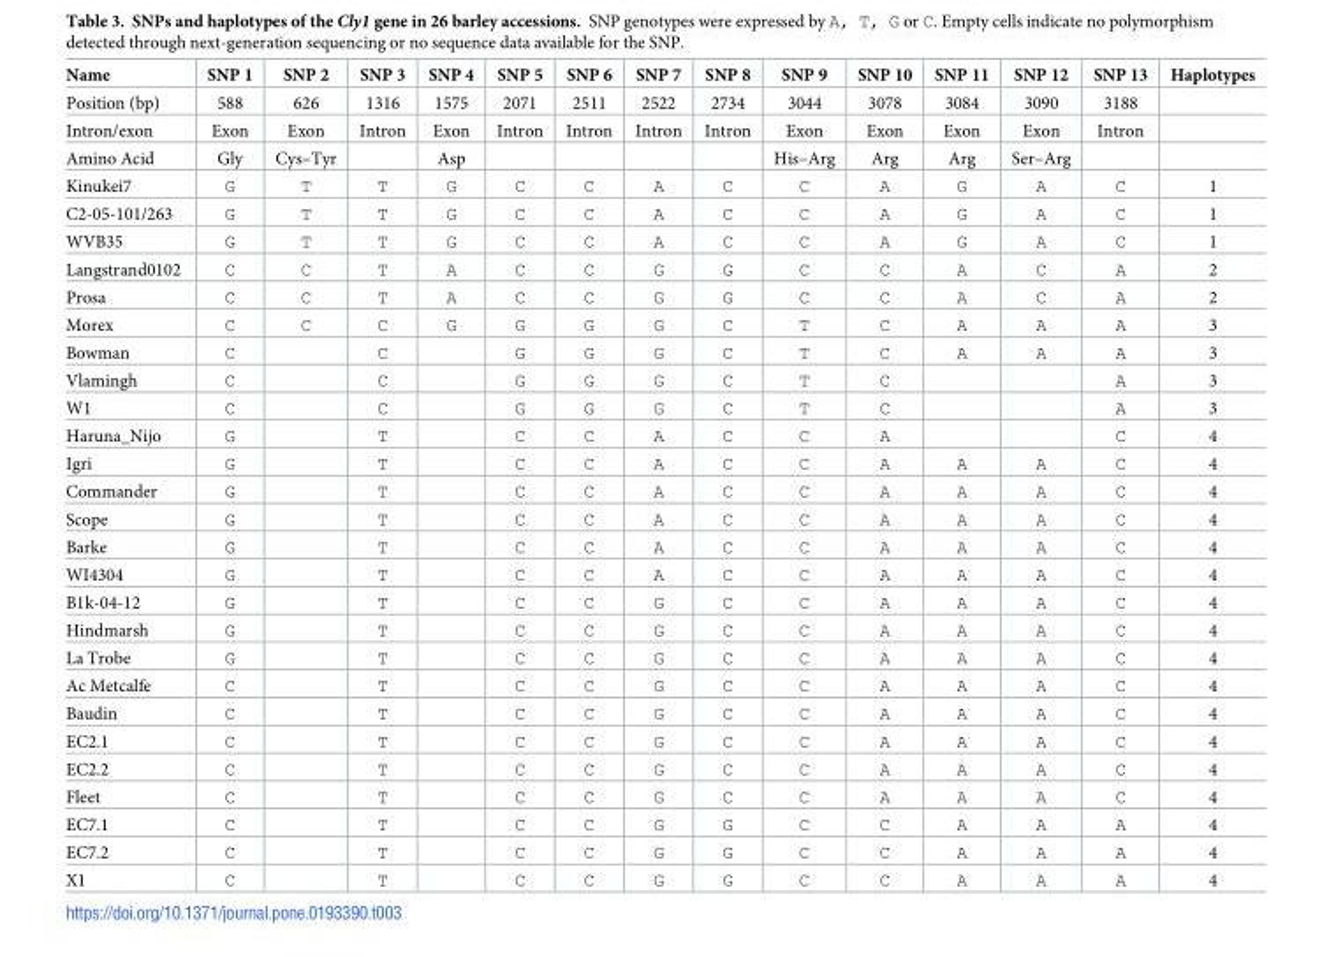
<table><thead><tr><td>Name</td><td>SNP 1</td><td>SNP 2</td><td>SNP 3</td><td>SNP 4</td><td>SNP 5</td><td>SNP 6</td><td>SNP 7</td><td>SNP 8</td><td>SNP 9</td><td>SNP 10</td><td>SNP 11</td><td>SNP 12</td><td>SNP 13</td><td>Haplotypes</td></tr></thead><tbody><tr><td>Position (bp)</td><td>588</td><td>626</td><td>1316</td><td>1575</td><td>2071</td><td>2511</td><td>2522</td><td>2734</td><td>3044</td><td>3078</td><td>3084</td><td>3090</td><td>3188</td><td></td></tr><tr><td>Intron/exon</td><td>Exon</td><td>Exon</td><td>Intron</td><td>Exon</td><td>Intron</td><td>Intron</td><td>Intron</td><td>Intron</td><td>Exon</td><td>Exon</td><td>Exon</td><td>Exon</td><td>Intron</td><td></td></tr><tr><td>Amino Acid</td><td>Gly</td><td>Cys–Tyr</td><td></td><td>Asp</td><td></td><td></td><td></td><td></td><td>His–Arg</td><td>Arg</td><td>Arg</td><td>Ser–Arg</td><td></td><td></td></tr><tr><td>Kinukei7</td><td>G</td><td>T</td><td>T</td><td>G</td><td>C</td><td>C</td><td>A</td><td>C</td><td>C</td><td>A</td><td>G</td><td>A</td><td>C</td><td>1</td></tr><tr><td>C2-05-101/263</td><td>G</td><td>T</td><td>T</td><td>G</td><td>C</td><td>C</td><td>A</td><td>C</td><td>C</td><td>A</td><td>G</td><td>A</td><td>C</td><td>1</td></tr><tr><td>WVB35</td><td>G</td><td>T</td><td>T</td><td>G</td><td>C</td><td>C</td><td>A</td><td>C</td><td>C</td><td>A</td><td>G</td><td>A</td><td>C</td><td>1</td></tr><tr><td>Langstrand0102</td><td>C</td><td>C</td><td>T</td><td>A</td><td>C</td><td>C</td><td>G</td><td>G</td><td>C</td><td>C</td><td>A</td><td>C</td><td>A</td><td>2</td></tr><tr><td>Prosa</td><td>C</td><td>C</td><td>T</td><td>A</td><td>C</td><td>C</td><td>G</td><td>G</td><td>C</td><td>C</td><td>A</td><td>C</td><td>A</td><td>2</td></tr><tr><td>Morex</td><td>C</td><td>C</td><td>C</td><td>G</td><td>G</td><td>G</td><td>G</td><td>C</td><td>T</td><td>C</td><td>A</td><td>A</td><td>A</td><td>3</td></tr><tr><td>Bowman</td><td>C</td><td></td><td>C</td><td></td><td>G</td><td>G</td><td>G</td><td>C</td><td>T</td><td>C</td><td>A</td><td>A</td><td>A</td><td>3</td></tr><tr><td>Vlamingh</td><td>C</td><td></td><td>C</td><td></td><td>G</td><td>G</td><td>G</td><td>C</td><td>T</td><td>C</td><td></td><td></td><td>A</td><td>3</td></tr><tr><td>W1</td><td>C</td><td></td><td>C</td><td></td><td>G</td><td>G</td><td>G</td><td>C</td><td>T</td><td>C</td><td></td><td></td><td>A</td><td>3</td></tr><tr><td>Haruna_Nijo</td><td>G</td><td></td><td>T</td><td></td><td>C</td><td>C</td><td>A</td><td>C</td><td>C</td><td>A</td><td></td><td></td><td>C</td><td>4</td></tr><tr><td>Igri</td><td>G</td><td></td><td>T</td><td></td><td>C</td><td>C</td><td>A</td><td>C</td><td>C</td><td>A</td><td>A</td><td>A</td><td>C</td><td>4</td></tr><tr><td>Commander</td><td>G</td><td></td><td>T</td><td></td><td>C</td><td>C</td><td>A</td><td>C</td><td>C</td><td>A</td><td>A</td><td>A</td><td>C</td><td>4</td></tr><tr><td>Scope</td><td>G</td><td></td><td>T</td><td></td><td>C</td><td>C</td><td>A</td><td>C</td><td>C</td><td>A</td><td>A</td><td>A</td><td>C</td><td>4</td></tr><tr><td>Barke</td><td>G</td><td></td><td>T</td><td></td><td>C</td><td>C</td><td>A</td><td>C</td><td>C</td><td>A</td><td>A</td><td>A</td><td>C</td><td>4</td></tr><tr><td>WI4304</td><td>G</td><td></td><td>T</td><td></td><td>C</td><td>C</td><td>A</td><td>C</td><td>C</td><td>A</td><td>A</td><td>A</td><td>C</td><td>4</td></tr><tr><td>B1k-04-12</td><td>G</td><td></td><td>T</td><td></td><td>C</td><td>C</td><td>G</td><td>C</td><td>C</td><td>A</td><td>A</td><td>A</td><td>C</td><td>4</td></tr><tr><td>Hindmarsh</td><td>G</td><td></td><td>T</td><td></td><td>C</td><td>C</td><td>G</td><td>C</td><td>C</td><td>A</td><td>A</td><td>A</td><td>C</td><td>4</td></tr><tr><td>La Trobe</td><td>G</td><td></td><td>T</td><td></td><td>C</td><td>C</td><td>G</td><td>C</td><td>C</td><td>A</td><td>A</td><td>A</td><td>C</td><td>4</td></tr><tr><td>Ac Metcalfe</td><td>C</td><td></td><td>T</td><td></td><td>C</td><td>C</td><td>G</td><td>C</td><td>C</td><td>A</td><td>A</td><td>A</td><td>C</td><td>4</td></tr><tr><td>Baudin</td><td>C</td><td></td><td>T</td><td></td><td>C</td><td>C</td><td>G</td><td>C</td><td>C</td><td>A</td><td>A</td><td>A</td><td>C</td><td>4</td></tr><tr><td>EC2.1</td><td>C</td><td></td><td>T</td><td></td><td>C</td><td>C</td><td>G</td><td>C</td><td>C</td><td>A</td><td>A</td><td>A</td><td>C</td><td>4</td></tr><tr><td>EC2.2</td><td>C</td><td></td><td>T</td><td></td><td>C</td><td>C</td><td>G</td><td>C</td><td>C</td><td>A</td><td>A</td><td>A</td><td>C</td><td>4</td></tr><tr><td>Fleet</td><td>C</td><td></td><td>T</td><td></td><td>C</td><td>C</td><td>G</td><td>C</td><td>C</td><td>A</td><td>A</td><td>A</td><td>C</td><td>4</td></tr><tr><td>EC7.1</td><td>C</td><td></td><td>T</td><td></td><td>C</td><td>C</td><td>G</td><td>G</td><td>C</td><td>C</td><td>A</td><td>A</td><td>A</td><td>4</td></tr><tr><td>EC7.2</td><td>C</td><td></td><td>T</td><td></td><td>C</td><td>C</td><td>G</td><td>G</td><td>C</td><td>C</td><td>A</td><td>A</td><td>A</td><td>4</td></tr><tr><td>X1</td><td>C</td><td></td><td>T</td><td></td><td>C</td><td>C</td><td>G</td><td>G</td><td>C</td><td>C</td><td>A</td><td>A</td><td>A</td><td>4</td></tr></tbody></table>